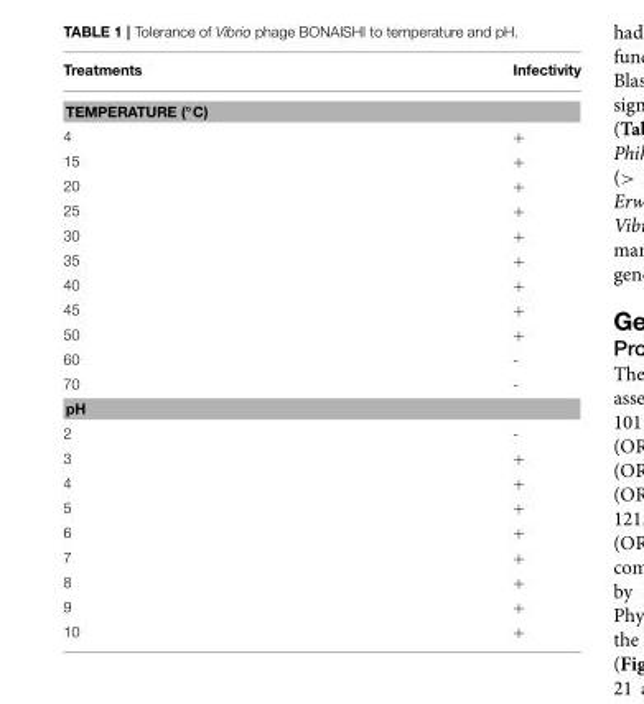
<table><thead><tr><td>Treatments</td><td>Infectivity</td></tr></thead><tbody><tr><td colspan="2">TEMPERATURE (◦C)</td></tr><tr><td>4</td><td>+</td></tr><tr><td>15</td><td>+</td></tr><tr><td>20</td><td>+</td></tr><tr><td>25</td><td>+</td></tr><tr><td>30</td><td>+</td></tr><tr><td>35</td><td>+</td></tr><tr><td>40</td><td>+</td></tr><tr><td>45</td><td>+</td></tr><tr><td>50</td><td>+</td></tr><tr><td>60</td><td>-</td></tr><tr><td>70</td><td>-</td></tr><tr><td colspan="2">pH</td></tr><tr><td>2</td><td>-</td></tr><tr><td>3</td><td>+</td></tr><tr><td>4</td><td>+</td></tr><tr><td>5</td><td>+</td></tr><tr><td>6</td><td>+</td></tr><tr><td>7</td><td>+</td></tr><tr><td>8</td><td>+</td></tr><tr><td>9</td><td>+</td></tr><tr><td>10</td><td>+</td></tr></tbody></table>